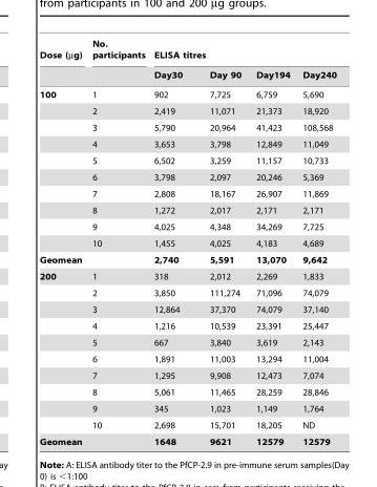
<table><thead><tr><td rowspan="2">Dose (µg)</td><td rowspan="2">No. participants</td><td colspan="4">ELISA titres</td></tr><tr><td>Day30</td><td>Day 90</td><td>Day194</td><td>Day240</td></tr></thead><tbody><tr><td rowspan="10">100</td><td>1</td><td>902</td><td>7,725</td><td>6,759</td><td>5,690</td></tr><tr><td>2</td><td>2,419</td><td>11,071</td><td>21,373</td><td>18,920</td></tr><tr><td>3</td><td>5,790</td><td>20,964</td><td>41,423</td><td>108,568</td></tr><tr><td>4</td><td>3,653</td><td>3,798</td><td>12,849</td><td>11,049</td></tr><tr><td>5</td><td>6,502</td><td>3,259</td><td>11,157</td><td>10,733</td></tr><tr><td>6</td><td>3,798</td><td>2,097</td><td>20,246</td><td>5,369</td></tr><tr><td>7</td><td>2,808</td><td>18,167</td><td>26,907</td><td>11,869</td></tr><tr><td>8</td><td>1,272</td><td>2,017</td><td>2,171</td><td>2,171</td></tr><tr><td>9</td><td>4,025</td><td>4,348</td><td>34,269</td><td>7,725</td></tr><tr><td>10</td><td>1,455</td><td>4,025</td><td>4,183</td><td>4,689</td></tr><tr><td>Geomean</td><td></td><td>2,740</td><td>5,591</td><td>13,070</td><td>9,642</td></tr><tr><td rowspan="10">200</td><td>1</td><td>318</td><td>2,012</td><td>2,269</td><td>1,833</td></tr><tr><td>2</td><td>3,850</td><td>111,274</td><td>71,096</td><td>74,079</td></tr><tr><td>3</td><td>12,864</td><td>37,370</td><td>74,079</td><td>37,140</td></tr><tr><td>4</td><td>1,216</td><td>10,539</td><td>23,391</td><td>25,447</td></tr><tr><td>5</td><td>667</td><td>3,840</td><td>3,619</td><td>2,143</td></tr><tr><td>6</td><td>1,891</td><td>11,003</td><td>13,294</td><td>11,004</td></tr><tr><td>7</td><td>1,295</td><td>9,908</td><td>12,473</td><td>7,074</td></tr><tr><td>8</td><td>5,061</td><td>11,465</td><td>28,259</td><td>28,846</td></tr><tr><td>9</td><td>345</td><td>1,023</td><td>1,149</td><td>1,764</td></tr><tr><td>10</td><td>2,698</td><td>15,701</td><td>18,205</td><td>ND</td></tr><tr><td>Geomean</td><td></td><td>1648</td><td>9621</td><td>12579</td><td>12579</td></tr></tbody></table>